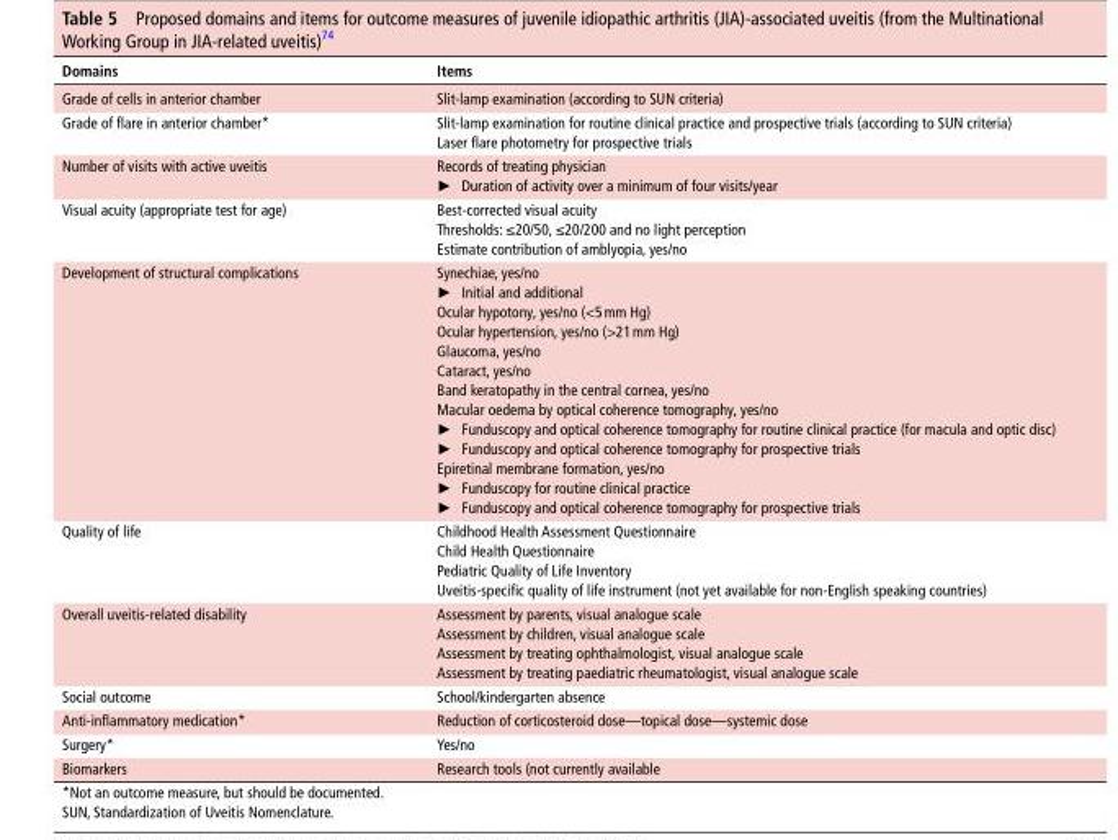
<table><thead><tr><td>domains</td><td>Items</td></tr></thead><tbody><tr><td>Grade of cells in anterior chamber</td><td>Slit-lamp examination (according to SUN criteria)</td></tr><tr><td>Grade of flare in anterior chamber*</td><td>Slit-lamp examination for routine clinical practice and prospective trials (according to SUN criteria) Laser flare photometry for prospective trials</td></tr><tr><td>Number of visits with active uveitis</td><td>Records of treating physician ► Duration of activity over a minimum of four visits/year</td></tr><tr><td>Visual acuity (appropriate test for age)</td><td>Best-corrected visual acuity Thresholds: ≤20/50, ≤20/200 and no light perception Estimate contribution of amblyopia, yes/no</td></tr><tr><td>Development of structural complications</td><td>Synechiae, yes/no ► Initial and additional Ocular hypotony, yes/no (&lt;5 mm Hg) Ocular hypertension, yes/no (&gt;21 mm Hg) Glaucoma, yes/no Cataract, yes/no Band keratopathy in the central cornea, yes/no Macular oedema by optical coherence tomography, yes/no ► Funduscopy and optical coherence tomography for routine clinical practice (for macula and optic disc) ► Funduscopy and optical coherence tomography for prospective trials Epiretinal membrane formation, yes/no ► Funduscopy for routine clinical practice ► Funduscopy and optical coherence tomography for prospective trials</td></tr><tr><td>Quality of life</td><td>Childhood Health Assessment Questionnaire Child Health Questionnaire Pediatric Quality of Life Inventory Uveitis-specific quality of life instrument (not yet available for non-English speaking countries)</td></tr><tr><td>Overall uveitis-related disability</td><td>Assessment by parents, visual analogue scale Assessment by children, visual analogue scale Assessment by treating ophthalmologist, visual analogue scale Assessment by treating paediatric rheumatologist, visual analogue scale</td></tr><tr><td>Social outcome</td><td>School/kindergarten absence</td></tr><tr><td>Anti-inflammatory medication*</td><td>Reduction of corticosteroid dose—topical dose—systemic dose</td></tr><tr><td>Surgery*</td><td>Yes/no</td></tr><tr><td>Biomarkers</td><td>Research tools (not currently available</td></tr></tbody></table>